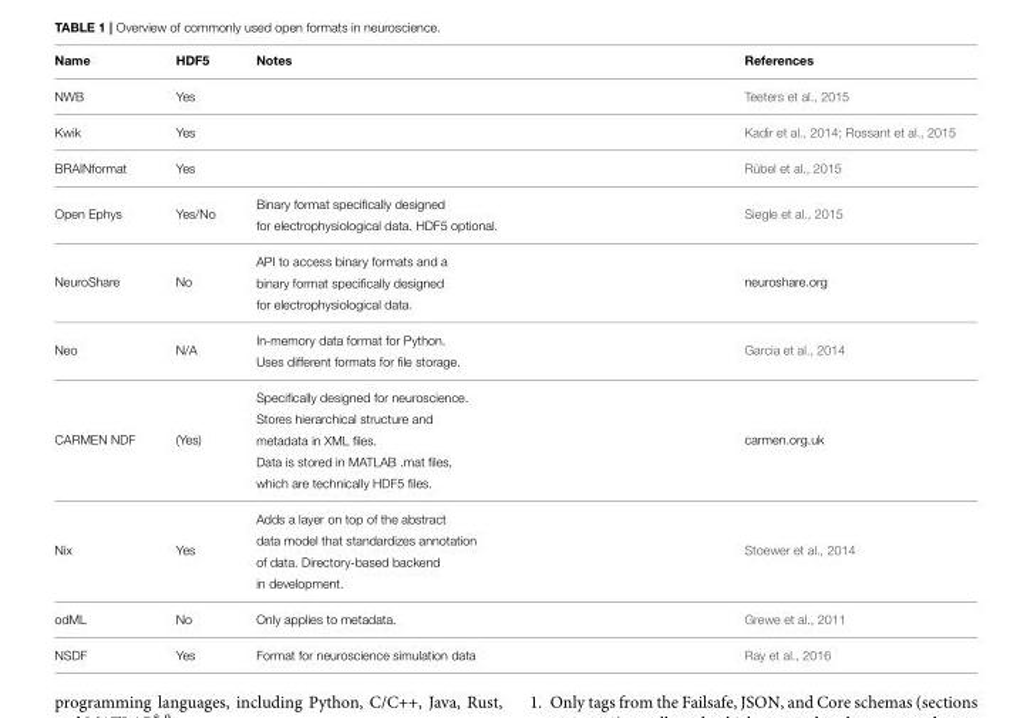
<table><thead><tr><td>Name</td><td>HDF5</td><td>Notes</td><td>References</td></tr></thead><tbody><tr><td>NWB</td><td>Yes</td><td></td><td>Teeters et al., 2015</td></tr><tr><td>Kwik</td><td>Yes</td><td></td><td>Kadir et al., 2014; Rossant et al., 2015</td></tr><tr><td>BRAINformat</td><td>Yes</td><td></td><td>Rübel et al., 2015</td></tr><tr><td>Open Ephys</td><td>Yes/No</td><td>Binary format specifically designed for electrophysiological data. HDF5 optional.</td><td>Siegle et al., 2015</td></tr><tr><td>NeuroShare</td><td>No</td><td>API to access binary formats and a binary format specifically designed for electrophysiological data.</td><td>neuroshare.org</td></tr><tr><td>Neo</td><td>N/A</td><td>In-memory data format for Python. Uses different formats for file storage.</td><td>Garcia et al., 2014</td></tr><tr><td>CARMEN NDF</td><td>(Yes)</td><td>Specifically designed for neuroscience. Stores hierarchical structure and metadata in XML files. Data is stored in MATLAB .mat files, which are technically HDF5 files.</td><td>carmen.org.uk</td></tr><tr><td>Nix</td><td>Yes</td><td>Adds a layer on top of the abstract data model that standardizes annotation of data. Directory-based backend in development.</td><td>Stoewer et al., 2014</td></tr><tr><td>odML</td><td>No</td><td>Only applies to metadata.</td><td>Grewe et al., 2011</td></tr><tr><td>NSDF</td><td>Yes</td><td>Format for neuroscience simulation data</td><td>Ray et al., 2016</td></tr></tbody></table>